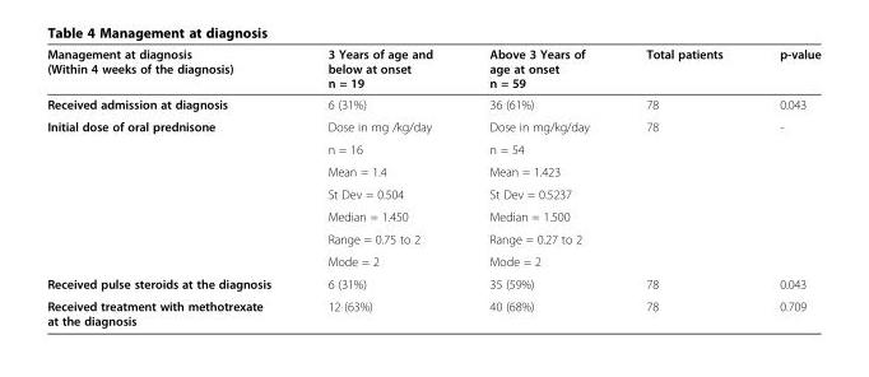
<table><thead><tr><td>Management at diagnosis (Within 4 weeks of the diagnosis)</td><td>3 Years of age and below at onset n = 19</td><td>Above 3 Years of age at onset n = 59</td><td>Total patients</td><td>p-value</td></tr></thead><tbody><tr><td>Received admission at diagnosis</td><td>6 (31%)</td><td>36 (61%)</td><td>78</td><td>0.043</td></tr><tr><td rowspan="7">Initial dose of oral prednisone</td><td>Dose in mg /kg/day</td><td>Dose in mg/kg/day</td><td rowspan="7">78</td><td rowspan="7">-</td></tr><tr><td>n = 16</td><td>n = 54</td></tr><tr><td>Mean = 1.4</td><td>Mean = 1.423</td></tr><tr><td>St Dev = 0.504</td><td>St Dev = 0.5237</td></tr><tr><td>Median = 1.450</td><td>Median = 1.500</td></tr><tr><td>Range = 0.75 to 2</td><td>Range = 0.27 to 2</td></tr><tr><td>Mode = 2</td><td>Mode = 2</td></tr><tr><td>Received pulse steroids at the diagnosis</td><td>6 (31%)</td><td>35 (59%)</td><td>78</td><td>0.043</td></tr><tr><td>Received treatment with methotrexate at the diagnosis</td><td>12 (63%)</td><td>40 (68%)</td><td>78</td><td>0.709</td></tr></tbody></table>